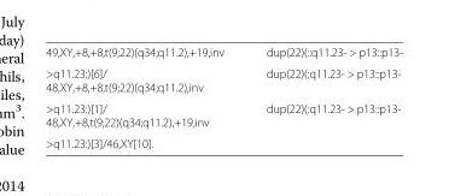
<table><tbody><tr><td>49,XY,+8,+8,t(9;22)(q34;q11.2),+19,inv</td><td>dup(22)(::q11.23- &gt; p13::p13-</td></tr><tr><td>&gt;q11.23:)[6]/ 48,XY,+8,+8,t(9;22)(q34;q11.2),inv</td><td>dup(22)(:q11.23- &gt; p13::p13-</td></tr><tr><td>&gt;q11.23:)[1]/ 48,XY,+8,t(9;22)(q34;q11.2),+19,inv</td><td>dup(22)(:q11.23- &gt; p13::p13-</td></tr><tr><td>&gt;q11.23:)[3]/46,XY[10].</td><td></td></tr></tbody></table>